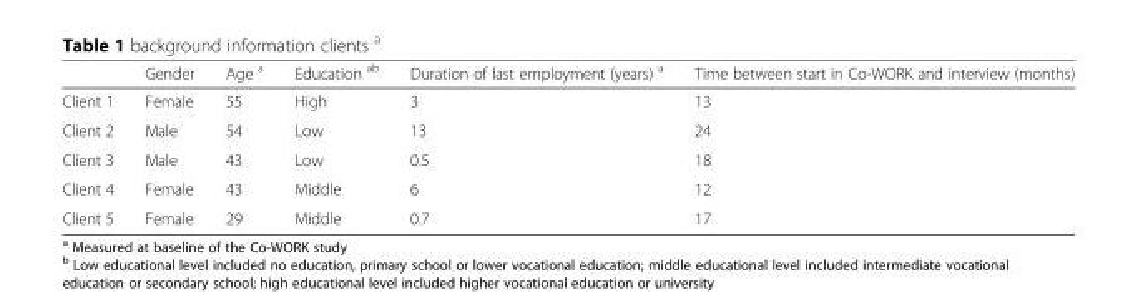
<table><thead><tr><td></td><td>Gender</td><td>Age <sup>a</sup></td><td>Education <sup>ab</sup></td><td>Duration of last employment (years) <sup>a</sup></td><td>Time between start in Co-WORK and interview (months)</td></tr></thead><tbody><tr><td>Client 1</td><td>Female</td><td>55</td><td>High</td><td>3</td><td>13</td></tr><tr><td>Client 2</td><td>Male</td><td>54</td><td>Low</td><td>13</td><td>24</td></tr><tr><td>Client 3</td><td>Male</td><td>43</td><td>Low</td><td>0.5</td><td>18</td></tr><tr><td>Client 4</td><td>Female</td><td>43</td><td>Middle</td><td>6</td><td>12</td></tr><tr><td>Client 5</td><td>Female</td><td>29</td><td>Middle</td><td>0.7</td><td>17</td></tr></tbody></table>